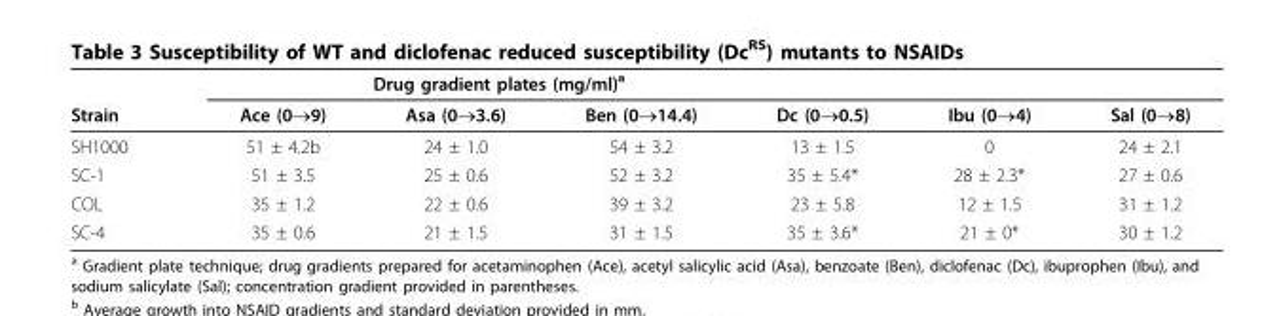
<table><thead><tr><td rowspan="2">Strain</td><td rowspan="2">Ace (0→9)</td><td colspan="3">Drug gradient plates (mg/ml)<sup>a</sup></td><td rowspan="2">Ibu (0→4)</td><td rowspan="2">Sal (0→8)</td></tr><tr><td>Asa (0→3.6)</td><td>Ben (0→14.4)</td><td>Dc (0→0.5)</td></tr></thead><tbody><tr><td>SH1000</td><td>51 ± 4.2b</td><td>24 ± 1.0</td><td>54 ± 3.2</td><td>13 ± 1.5</td><td>0</td><td>24 ± 2.1</td></tr><tr><td>SC-1</td><td>51 ± 3.5</td><td>25 ± 0.6</td><td>52 ± 3.2</td><td>35 ± 5.4*</td><td>28 ± 2.3*</td><td>27 ± 0.6</td></tr><tr><td>COL</td><td>35 ± 1.2</td><td>22 ± 0.6</td><td>39 ± 3.2</td><td>23 ± 5.8</td><td>12 ± 1.5</td><td>31 ± 1.2</td></tr><tr><td>SC-4</td><td>35 ± 0.6</td><td>21 ± 1.5</td><td>31 ± 1.5</td><td>35 ± 3.6*</td><td>21 ± 0*</td><td>30 ± 1.2</td></tr></tbody></table>